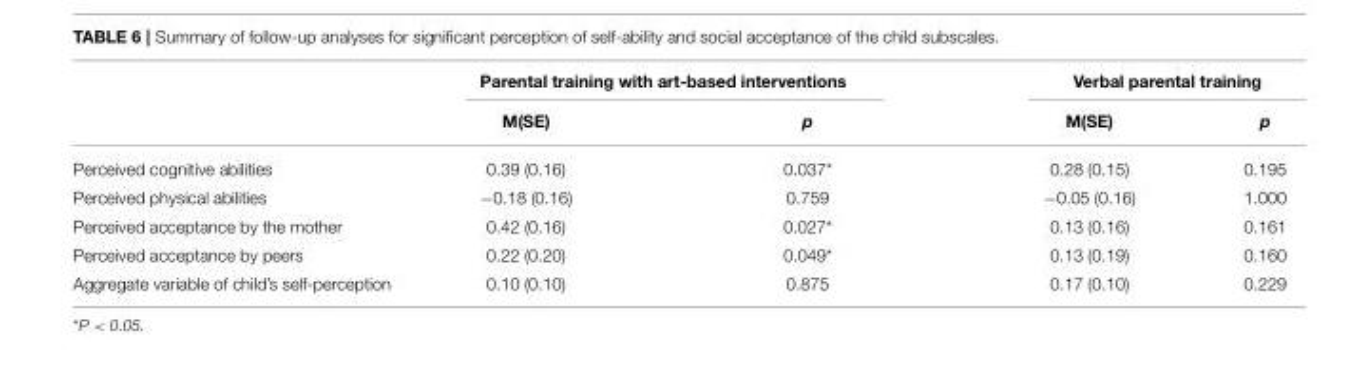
<table><thead><tr><td rowspan="2"></td><td colspan="2">Parental training with art-based interventions</td><td colspan="2">Verbal parental training</td></tr><tr><td>M(SE)</td><td>p</td><td>M(SE)</td><td>p</td></tr></thead><tbody><tr><td>Perceived cognitive abilities</td><td>0.39 (0.16)</td><td>0.037*</td><td>0.28 (0.15)</td><td>0.195</td></tr><tr><td>Perceived physical abilities</td><td>−0.18 (0.16)</td><td>0.759</td><td>−0.05 (0.16)</td><td>1.000</td></tr><tr><td>Perceived acceptance by the mother</td><td>0.42 (0.16)</td><td>0.027*</td><td>0.13 (0.16)</td><td>0.161</td></tr><tr><td>Perceived acceptance by peers</td><td>0.22 (0.20)</td><td>0.049*</td><td>0.13 (0.19)</td><td>0.160</td></tr><tr><td>Aggregate variable of child’s self-perception</td><td>0.10 (0.10)</td><td>0.875</td><td>0.17 (0.10)</td><td>0.229</td></tr></tbody></table>